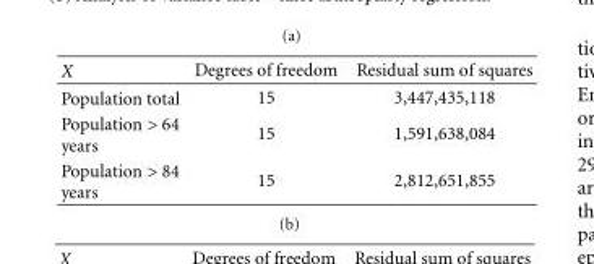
<table><thead><tr><td>X</td><td>Degrees of freedom</td><td>Residual sum of squares</td></tr></thead><tbody><tr><td>Population total</td><td>15</td><td>3,447,435,118</td></tr><tr><td>Population &gt; 64 years</td><td>15</td><td>1,591,638,084</td></tr><tr><td>Population &gt; 84 years</td><td>15</td><td>2,812,651,855</td></tr></tbody></table>